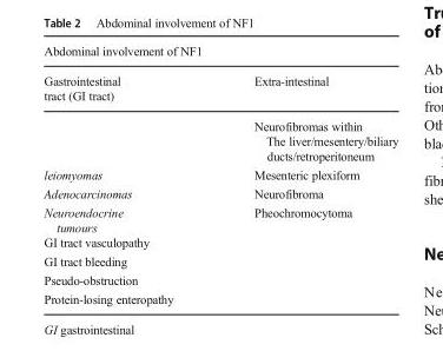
<table><thead><tr><td colspan="2">Abdominal involvement of NF1</td></tr><tr><td>Gastrointestinal tract (GI tract)</td><td>Extra-intestinal</td></tr></thead><tbody><tr><td></td><td>Neurofibromas within The liver/mesentery/biliary ducts/retroperitoneum</td></tr><tr><td>leiomyomas</td><td>Mesenteric plexiform</td></tr><tr><td>Adenocarcinomas</td><td>Neurofibroma</td></tr><tr><td>Neuroendocrine tumours</td><td>Pheochromocytoma</td></tr><tr><td colspan="2">GI tract vasculopathy</td></tr><tr><td colspan="2">GI tract bleeding</td></tr><tr><td colspan="2">Pseudo-obstruction</td></tr><tr><td>Protein-losing enteropathy</td><td></td></tr></tbody></table>